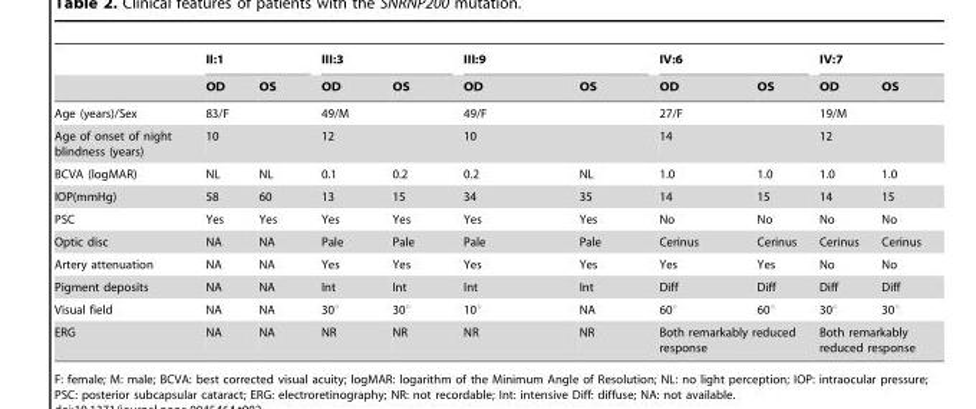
<table><thead><tr><td rowspan="2"></td><td colspan="2">II:1</td><td colspan="2">III:3</td><td colspan="2">III:9</td><td colspan="2">IV:6</td><td colspan="2">IV:7</td></tr><tr><td>OD</td><td>OS</td><td>OD</td><td>OS</td><td>OD</td><td>OS</td><td>OD</td><td>OS</td><td>OD</td><td>OS</td></tr></thead><tbody><tr><td>Age (years)/Sex</td><td colspan="2">83/F</td><td colspan="2">49/M</td><td colspan="2">49/F</td><td colspan="2">27/F</td><td colspan="2">19/M</td></tr><tr><td>Age of onset of night blindness (years)</td><td colspan="2">10</td><td colspan="2">12</td><td colspan="2">10</td><td colspan="2">14</td><td colspan="2">12</td></tr><tr><td>BCVA (logMAR)</td><td>NL</td><td>NL</td><td>0.1</td><td>0.2</td><td>0.2</td><td>NL</td><td>1.0</td><td>1.0</td><td>1.0</td><td>1.0</td></tr><tr><td>IOP(mmHg)</td><td>58</td><td>60</td><td>13</td><td>15</td><td>34</td><td>35</td><td>14</td><td>15</td><td>14</td><td>15</td></tr><tr><td>PSC</td><td>Yes</td><td>Yes</td><td>Yes</td><td>Yes</td><td>Yes</td><td>Yes</td><td>No</td><td>No</td><td>No</td><td>No</td></tr><tr><td>Optic disc</td><td>NA</td><td>NA</td><td>Pale</td><td>Pale</td><td>Pale</td><td>Pale</td><td>Cerinus</td><td>Cerinus</td><td>Cerinus</td><td>Cerinus</td></tr><tr><td>Artery attenuation</td><td>NA</td><td>NA</td><td>Yes</td><td>Yes</td><td>Yes</td><td>Yes</td><td>Yes</td><td>Yes</td><td>No</td><td>No</td></tr><tr><td>Pigment deposits</td><td>NA</td><td>NA</td><td>Int</td><td>Int</td><td>Int</td><td>Int</td><td>Diff</td><td>Diff</td><td>Diff</td><td>Diff</td></tr><tr><td>Visual field</td><td>NA</td><td>NA</td><td>30°</td><td>30°</td><td>10°</td><td>NA</td><td>60°</td><td>60°</td><td>30°</td><td>30°</td></tr><tr><td>ERG</td><td>NA</td><td>NA</td><td>NR</td><td>NR</td><td>NR</td><td>NR</td><td colspan="2">Both remarkably reduced response</td><td colspan="2">Both remarkably reduced response</td></tr></tbody></table>